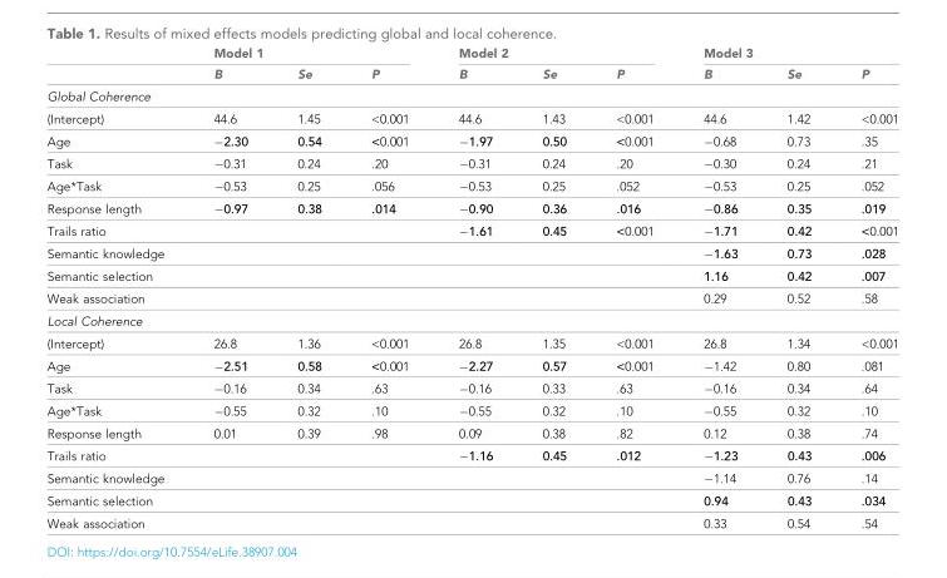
<table><thead><tr><td rowspan="2"></td><td colspan="3">Model 1</td><td colspan="3">Model 2</td><td colspan="3">Model 3</td></tr><tr><td>B</td><td>Se</td><td>P</td><td>B</td><td>Se</td><td>P</td><td>B</td><td>Se</td><td>P</td></tr></thead><tbody><tr><td colspan="10">Global Coherence</td></tr><tr><td>(Intercept)</td><td>44.6</td><td>1.45</td><td>&lt;0.001</td><td>44.6</td><td>1.43</td><td>&lt;0.001</td><td>44.6</td><td>1.42</td><td>&lt;0.001</td></tr><tr><td>Age</td><td>−2.30</td><td>0.54</td><td>&lt;0.001</td><td>−1.97</td><td>0.50</td><td>&lt;0.001</td><td>−0.68</td><td>0.73</td><td>.35</td></tr><tr><td>Task</td><td>−0.31</td><td>0.24</td><td>.20</td><td>−0.31</td><td>0.24</td><td>.20</td><td>−0.30</td><td>0.24</td><td>.21</td></tr><tr><td>Age*Task</td><td>−0.53</td><td>0.25</td><td>.056</td><td>−0.53</td><td>0.25</td><td>.052</td><td>−0.53</td><td>0.25</td><td>.052</td></tr><tr><td>Response length</td><td>−0.97</td><td>0.38</td><td>.014</td><td>−0.90</td><td>0.36</td><td>.016</td><td>−0.86</td><td>0.35</td><td>.019</td></tr><tr><td>Trails ratio</td><td></td><td></td><td></td><td>−1.61</td><td>0.45</td><td>&lt;0.001</td><td>−1.71</td><td>0.42</td><td>&lt;0.001</td></tr><tr><td>Semantic knowledge</td><td></td><td></td><td></td><td></td><td></td><td></td><td>−1.63</td><td>0.73</td><td>.028</td></tr><tr><td>Semantic selection</td><td></td><td></td><td></td><td></td><td></td><td></td><td>1.16</td><td>0.42</td><td>.007</td></tr><tr><td>Weak association</td><td></td><td></td><td></td><td></td><td></td><td></td><td>0.29</td><td>0.52</td><td>.58</td></tr><tr><td colspan="10">Local Coherence</td></tr><tr><td>(Intercept)</td><td>26.8</td><td>1.36</td><td>&lt;0.001</td><td>26.8</td><td>1.35</td><td>&lt;0.001</td><td>26.8</td><td>1.34</td><td>&lt;0.001</td></tr><tr><td>Age</td><td>−2.51</td><td>0.58</td><td>&lt;0.001</td><td>−2.27</td><td>0.57</td><td>&lt;0.001</td><td>−1.42</td><td>0.80</td><td>.081</td></tr><tr><td>Task</td><td>−0.16</td><td>0.34</td><td>.63</td><td>−0.16</td><td>0.33</td><td>.63</td><td>−0.16</td><td>0.34</td><td>.64</td></tr><tr><td>Age*Task</td><td>−0.55</td><td>0.32</td><td>.10</td><td>−0.55</td><td>0.32</td><td>.10</td><td>−0.55</td><td>0.32</td><td>.10</td></tr><tr><td>Response length</td><td>0.01</td><td>0.39</td><td>.98</td><td>0.09</td><td>0.38</td><td>.82</td><td>0.12</td><td>0.38</td><td>.74</td></tr><tr><td>Trails ratio</td><td></td><td></td><td></td><td>−1.16</td><td>0.45</td><td>.012</td><td>−1.23</td><td>0.43</td><td>.006</td></tr><tr><td>Semantic knowledge</td><td></td><td></td><td></td><td></td><td></td><td></td><td>−1.14</td><td>0.76</td><td>.14</td></tr><tr><td>Semantic selection</td><td></td><td></td><td></td><td></td><td></td><td></td><td>0.94</td><td>0.43</td><td>.034</td></tr><tr><td>Weak association</td><td></td><td></td><td></td><td></td><td></td><td></td><td>0.33</td><td>0.54</td><td>.54</td></tr></tbody></table>